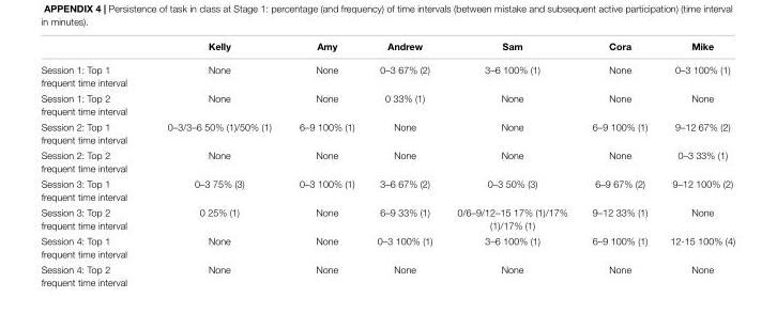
<table><thead><tr><td></td><td>Kelly</td><td>Amy</td><td>Andrew</td><td>Sam</td><td>Cora</td><td>Mike</td></tr></thead><tbody><tr><td>Session 1: Top 1 frequent time interval</td><td>None</td><td>None</td><td>0–3 67% (2)</td><td>3–6 100% (1)</td><td>None</td><td>0–3 100% (1)</td></tr><tr><td>Session 1: Top 2 frequent time interval</td><td>None</td><td>None</td><td>0 33% (1)</td><td>None</td><td>None</td><td>None</td></tr><tr><td>Session 2: Top 1 frequent time interval</td><td>0–3/3–6 50% (1)/50% (1)</td><td>6–9 100% (1)</td><td>None</td><td>None</td><td>6–9 100% (1)</td><td>9–12 67% (2)</td></tr><tr><td>Session 2: Top 2 frequent time interval</td><td>None</td><td>None</td><td>None</td><td>None</td><td>None</td><td>0–3 33% (1)</td></tr><tr><td>Session 3: Top 1 frequent time interval</td><td>0–3 75% (3)</td><td>0–3 100% (1)</td><td>3–6 67% (2)</td><td>0–3 50% (3)</td><td>6–9 67% (2)</td><td>9–12 100% (2)</td></tr><tr><td>Session 3: Top 2 frequent time interval</td><td>0 25% (1)</td><td>None</td><td>6–9 33% (1)</td><td>0/6–9/12–15 17% (1)/17% (1)/17% (1)</td><td>9–12 33% (1)</td><td>None</td></tr><tr><td>Session 4: Top 1 frequent time interval</td><td>None</td><td>None</td><td>0–3 100% (1)</td><td>3–6 100% (1)</td><td>6–9 100% (1)</td><td>12-15 100% (4)</td></tr><tr><td>Session 4: Top 2 frequent time interval</td><td>None</td><td>None</td><td>None</td><td>None</td><td>None</td><td>None</td></tr></tbody></table>